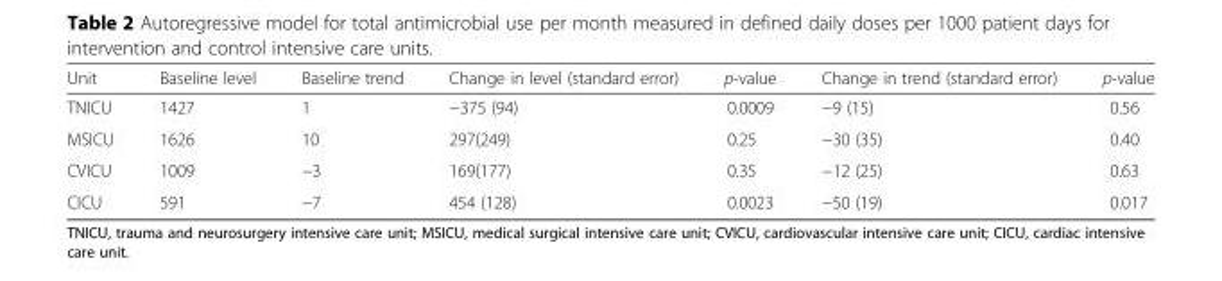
<table><thead><tr><td>Unit</td><td>Baseline level</td><td>Baseline trend</td><td>Change in level (standard error)</td><td>p-value</td><td>Change in trend (standard error)</td><td>p-value</td></tr></thead><tbody><tr><td>TNICU</td><td>1427</td><td>1</td><td>−375 (94)</td><td>0.0009</td><td>−9 (15)</td><td>0.56</td></tr><tr><td>MSICU</td><td>1626</td><td>10</td><td>297(249)</td><td>0.25</td><td>−30 (35)</td><td>0.40</td></tr><tr><td>CVICU</td><td>1009</td><td>−3</td><td>169(177)</td><td>0.35</td><td>−12 (25)</td><td>0.63</td></tr><tr><td>CICU</td><td>591</td><td>−7</td><td>454 (128)</td><td>0.0023</td><td>−50 (19)</td><td>0.017</td></tr></tbody></table>